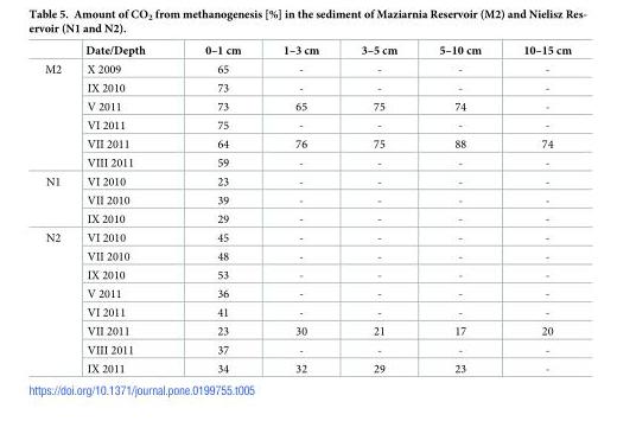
<table><thead><tr><td></td><td>Date/Depth</td><td>0–1 cm</td><td>1–3 cm</td><td>3–5 cm</td><td>5–10 cm</td><td>10–15 cm</td></tr></thead><tbody><tr><td rowspan="6">M2</td><td>X 2009</td><td>65</td><td>-</td><td>-</td><td>-</td><td>-</td></tr><tr><td>IX 2010</td><td>73</td><td>-</td><td>-</td><td>-</td><td>-</td></tr><tr><td>V 2011</td><td>73</td><td>65</td><td>75</td><td>74</td><td>-</td></tr><tr><td>VI 2011</td><td>75</td><td>-</td><td>-</td><td>-</td><td>-</td></tr><tr><td>VII 2011</td><td>64</td><td>76</td><td>75</td><td>88</td><td>74</td></tr><tr><td>VIII 2011</td><td>59</td><td>-</td><td>-</td><td>-</td><td>-</td></tr><tr><td rowspan="3">N1</td><td>VI 2010</td><td>23</td><td>-</td><td>-</td><td>-</td><td>-</td></tr><tr><td>VII 2010</td><td>39</td><td>-</td><td>-</td><td>-</td><td>-</td></tr><tr><td>IX 2010</td><td>29</td><td>-</td><td>-</td><td>-</td><td>-</td></tr><tr><td rowspan="8">N2</td><td>VI 2010</td><td>45</td><td>-</td><td>-</td><td>-</td><td>-</td></tr><tr><td>VII 2010</td><td>48</td><td>-</td><td>-</td><td>-</td><td>-</td></tr><tr><td>IX 2010</td><td>53</td><td>-</td><td>-</td><td>-</td><td>-</td></tr><tr><td>V 2011</td><td>36</td><td>-</td><td>-</td><td>-</td><td>-</td></tr><tr><td>VI 2011</td><td>41</td><td>-</td><td>-</td><td>-</td><td>-</td></tr><tr><td>VII 2011</td><td>23</td><td>30</td><td>21</td><td>17</td><td>20</td></tr><tr><td>VIII 2011</td><td>37</td><td>-</td><td>-</td><td>-</td><td>-</td></tr><tr><td>IX 2011</td><td>34</td><td>32</td><td>29</td><td>23</td><td>-</td></tr></tbody></table>